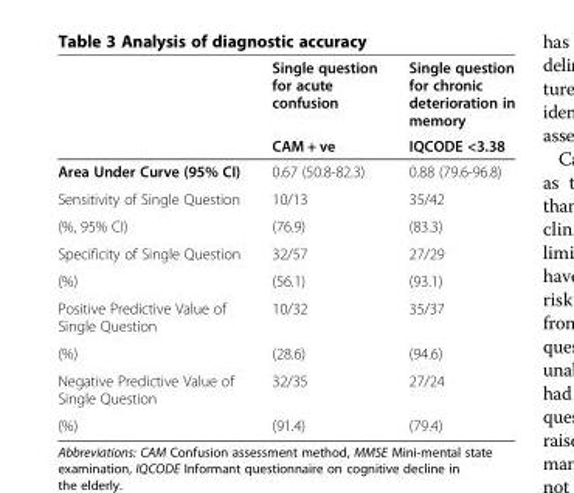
<table><thead><tr><td rowspan="2"></td><td rowspan="2">Single question for acute confusion CAM + ve</td><td rowspan="2">Single question for chronic deterioration in memory IQCODE &lt;3.38</td></tr><tr></tr></thead><tbody><tr><td>Area Under Curve (95% CI)</td><td>0.67 (50.8-82.3)</td><td>0.88 (79.6-96.8)</td></tr><tr><td>Sensitivity of Single Question</td><td>10/13</td><td>35/42</td></tr><tr><td>(%, 95% CI)</td><td>(76.9)</td><td>(83.3)</td></tr><tr><td>Specificity of Single Question</td><td>32/57</td><td>27/29</td></tr><tr><td>(%)</td><td>(56.1)</td><td>(93.1)</td></tr><tr><td>Positive Predictive Value of Single Question</td><td>10/32</td><td>35/37</td></tr><tr><td>(%)</td><td>(28.6)</td><td>(94.6)</td></tr><tr><td>Negative Predictive Value of Single Question</td><td>32/35</td><td>27/24</td></tr><tr><td>(%)</td><td>(91.4)</td><td>(79.4)</td></tr></tbody></table>